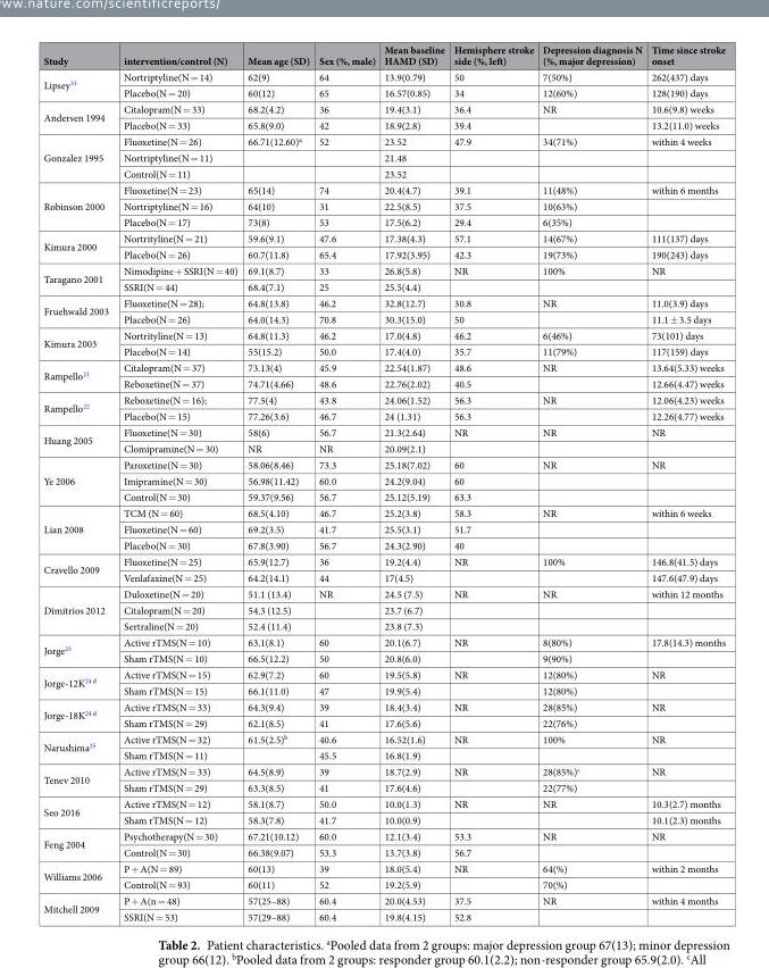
<table><thead><tr><td>Study</td><td>intervention/control (N)</td><td>Mean age (SD)</td><td>Sex (%, male)</td><td>Mean baseline HAMD (SD)</td><td>Hemisphere stroke side (%, left)</td><td>Depression diagnosis N (%, major depression)</td><td>Time since stroke onset</td></tr></thead><tbody><tr><td rowspan="2">Lipsey<sup>33</sup></td><td>Nortriptyline(N = 14)</td><td>62(9)</td><td>64</td><td>13.9(0.79)</td><td>50</td><td>7(50%)</td><td>262(437) days</td></tr><tr><td>Placebo(N = 20)</td><td>60(12)</td><td>65</td><td>16.57(0.85)</td><td>34</td><td>12(60%)</td><td>128(190) days</td></tr><tr><td rowspan="2">Andersen 1994</td><td>Citalopram(N = 33)</td><td>68.2(4.2)</td><td>36</td><td>19.4(3.1)</td><td>36.4</td><td>NR</td><td>10.6(9.8) weeks</td></tr><tr><td>Placebo(N = 33)</td><td>65.8(9.0)</td><td>42</td><td>18.9(2.8)</td><td>39.4</td><td></td><td>13.2(11.0) weeks</td></tr><tr><td rowspan="3">Gonzalez 1995</td><td>Fluoxetine(N = 26)</td><td>66.71(12.60)<sup>a</sup></td><td>52</td><td>23.52</td><td>47.9</td><td>34(71%)</td><td>within 4 weeks</td></tr><tr><td>Nortriptyline(N = 11)</td><td></td><td></td><td>21.48</td><td></td><td></td><td></td></tr><tr><td>Control(N = 11)</td><td></td><td></td><td>23.52</td><td></td><td></td><td></td></tr><tr><td rowspan="3">Robinson 2000</td><td>Fluoxetine(N = 23)</td><td>65(14)</td><td>74</td><td>20.4(4.7)</td><td>39.1</td><td>11(48%)</td><td>within 6 months</td></tr><tr><td>Nortriptyline(N = 16)</td><td>64(10)</td><td>31</td><td>22.5(8.5)</td><td>37.5</td><td>10(63%)</td><td></td></tr><tr><td>Placebo(N = 17)</td><td>73(8)</td><td>53</td><td>17.5(6.2)</td><td>29.4</td><td>6(35%)</td><td></td></tr><tr><td rowspan="2">Kimura 2000</td><td>Nortrityline(N = 21)</td><td>59.6(9.1)</td><td>47.6</td><td>17.38(4.3)</td><td>57.1</td><td>14(67%)</td><td>111(137) days</td></tr><tr><td>Placebo(N = 26)</td><td>60.7(11.8)</td><td>65.4</td><td>17.92(3.95)</td><td>42.3</td><td>19(73%)</td><td>190(243) days</td></tr><tr><td rowspan="2">Taragano 2001</td><td>Nimodipine + SSRI(N = 40)</td><td>69.1(8.7)</td><td>33</td><td>26.8(5.8)</td><td>NR</td><td>100%</td><td>NR</td></tr><tr><td>SSRI(N = 44)</td><td>68.4(7.1)</td><td>25</td><td>25.5(4.4)</td><td></td><td></td><td></td></tr><tr><td rowspan="2">Fruehwald 2003</td><td>Fluoxetine(N = 28);</td><td>64.8(13.8)</td><td>46.2</td><td>32.8(12.7)</td><td>30.8</td><td>NR</td><td>11.0(3.9) days</td></tr><tr><td>Placebo(N = 26)</td><td>64.0(14.3)</td><td>70.8</td><td>30.3(15.0)</td><td>50</td><td></td><td>11.1 ± 3.5 days</td></tr><tr><td rowspan="2">Kimura 2003</td><td>Nortrityline(N = 13)</td><td>64.8(11.3)</td><td>46.2</td><td>17.0(4.8)</td><td>46.2</td><td>6(46%)</td><td>73(101) days</td></tr><tr><td>Placebo(N = 14)</td><td>55(15.2)</td><td>50.0</td><td>17.4(4.0)</td><td>35.7</td><td>11(79%)</td><td>117(159) days</td></tr><tr><td rowspan="2">Rampello<sup>21</sup></td><td>Citalopram(N = 37)</td><td>73.13(4)</td><td>45.9</td><td>22.54(1.87)</td><td>48.6</td><td>NR</td><td>13.64(5.33) weeks</td></tr><tr><td>Reboxetine(N = 37)</td><td>74.71(4.66)</td><td>48.6</td><td>22.76(2.02)</td><td>40.5</td><td></td><td>12.66(4.47) weeks</td></tr><tr><td rowspan="2">Rampello<sup>22</sup></td><td>Reboxetine(N = 16);</td><td>77.5(4)</td><td>43.8</td><td>24.06(1.52)</td><td>56.3</td><td>NR</td><td>12.06(4.23) weeks</td></tr><tr><td>Placebo(N = 15)</td><td>77.26(3.6)</td><td>46.7</td><td>24 (1.31)</td><td>56.3</td><td></td><td>12.26(4.77) weeks</td></tr><tr><td rowspan="2">Huang 2005</td><td>Fluoxetine(N = 30)</td><td>58(6)</td><td>56.7</td><td>21.3(2.64)</td><td>NR</td><td>NR</td><td>NR</td></tr><tr><td>Clomipramine(N = 30)</td><td>NR</td><td>NR</td><td>20.09(2.1)</td><td></td><td></td><td></td></tr><tr><td rowspan="3">Ye 2006</td><td>Paroxetine(N = 30)</td><td>58.06(8.46)</td><td>73.3</td><td>25.18(7.02)</td><td>60</td><td>NR</td><td>NR</td></tr><tr><td>Imipramine(N = 30)</td><td>56.98(11.42)</td><td>60.0</td><td>24.2(9.04)</td><td>60</td><td></td><td></td></tr><tr><td>Control(N = 30)</td><td>59.37(9.56)</td><td>56.7</td><td>25.12(5.19)</td><td>63.3</td><td></td><td></td></tr><tr><td rowspan="3">Lian 2008</td><td>TCM (N = 60)</td><td>68.5(4.10)</td><td>46.7</td><td>25.2(3.8)</td><td>58.3</td><td>NR</td><td>within 6 weeks</td></tr><tr><td>Fluoxetine(N = 60)</td><td>69.2(3.5)</td><td>41.7</td><td>25.5(3.1)</td><td>51.7</td><td></td><td></td></tr><tr><td>Placebo(N = 30)</td><td>67.8(3.90)</td><td>56.7</td><td>24.3(2.90)</td><td>40</td><td></td><td></td></tr><tr><td rowspan="2">Cravello 2009</td><td>Fluoxetine(N = 25)</td><td>65.9(12.7)</td><td>36</td><td>19.2(4.4)</td><td>NR</td><td>100%</td><td>146.8(41.5) days</td></tr><tr><td>Venlafaxine(N = 25)</td><td>64.2(14.1)</td><td>44</td><td>17(4.5)</td><td></td><td></td><td>147.6(47.9) days</td></tr><tr><td rowspan="3">Dimitrios 2012</td><td>Duloxetine(N = 20)</td><td>51.1 (13.4)</td><td>NR</td><td>24.5 (7.5)</td><td>NR</td><td>NR</td><td>within 12 months</td></tr><tr><td>Citalopram(N = 20)</td><td>54.3 (12.5)</td><td></td><td>23.7 (6.7)</td><td></td><td></td><td></td></tr><tr><td>Sertraline(N = 20)</td><td>52.4 (11.4)</td><td></td><td>23.8 (7.3)</td><td></td><td></td><td></td></tr><tr><td rowspan="2">Jorge<sup>23</sup></td><td>Active rTMS(N = 10)</td><td>63.1(8.1)</td><td>60</td><td>20.1(6.7)</td><td>NR</td><td>8(80%)</td><td>17.8(14.3) months</td></tr><tr><td>Sham rTMS(N = 10)</td><td>66.5(12.2)</td><td>50</td><td>20.8(6.0)</td><td></td><td>9(90%)</td><td></td></tr><tr><td rowspan="2">Jorge-12K<sup>24 d</sup></td><td>Active rTMS(N = 15)</td><td>62.9(7.2)</td><td>60</td><td>19.5(5.8)</td><td>NR</td><td>12(80%)</td><td>NR</td></tr><tr><td>Sham rTMS(N = 15)</td><td>66.1(11.0)</td><td>47</td><td>19.9(5.4)</td><td></td><td>12(80%)</td><td></td></tr><tr><td rowspan="2">Jorge-18K<sup>24 d</sup></td><td>Active rTMS(N = 33)</td><td>64.3(9.4)</td><td>39</td><td>18.4(3.4)</td><td>NR</td><td>28(85%)</td><td>NR</td></tr><tr><td>Sham rTMS(N = 29)</td><td>62.1(8.5)</td><td>41</td><td>17.6(5.6)</td><td></td><td>22(76%)</td><td></td></tr><tr><td rowspan="2">Narushima<sup>25</sup></td><td>Active rTMS(N = 32)</td><td>61.5(2.5)<sup>b</sup></td><td>40.6</td><td>16.52(1.6)</td><td>NR</td><td>100%</td><td>NR</td></tr><tr><td>Sham rTMS(N = 11)</td><td></td><td>45.5</td><td>16.8(1.9)</td><td></td><td></td><td></td></tr><tr><td rowspan="2">Tenev 2010</td><td>Active rTMS(N = 33)</td><td>64.5(8.9)</td><td>39</td><td>18.7(2.9)</td><td>NR</td><td>28(85%)<sup>c</sup></td><td>NR</td></tr><tr><td>Sham rTMS(N = 29)</td><td>63.3(8.5)</td><td>41</td><td>17.6(4.6)</td><td></td><td>22(77%)</td><td></td></tr><tr><td rowspan="2">Seo 2016</td><td>Active rTMS(N = 12)</td><td>58.1(8.7)</td><td>50.0</td><td>10.0(1.3)</td><td>NR</td><td>NR</td><td>10.3(2.7) months</td></tr><tr><td>Sham rTMS(N = 12)</td><td>58.3(7.8)</td><td>41.7</td><td>10.0(0.9)</td><td></td><td></td><td>10.1(2.3) months</td></tr><tr><td rowspan="2">Feng 2004</td><td>Psychotherapy(N = 30)</td><td>67.21(10.12)</td><td>60.0</td><td>12.1(3.4)</td><td>53.3</td><td>NR</td><td>NR</td></tr><tr><td>Control(N = 30)</td><td>66.38(9.07)</td><td>53.3</td><td>13.7(3.8)</td><td>56.7</td><td></td><td></td></tr><tr><td rowspan="2">Williams 2006</td><td>P + A(N = 89)</td><td>60(13)</td><td>39</td><td>18.0(5.4)</td><td>NR</td><td>64(%)</td><td>within 2 months</td></tr><tr><td>Control(N = 93)</td><td>60(11)</td><td>52</td><td>19.2(5.9)</td><td></td><td>70(%)</td><td></td></tr><tr><td rowspan="2">Mitchell 2009</td><td>P + A(n = 48)</td><td>57(25–88)</td><td>60.4</td><td>20.0(4.53)</td><td>37.5</td><td>NR</td><td>within 4 months</td></tr><tr><td>SSRI(N = 53)</td><td>57(29–88)</td><td>60.4</td><td>19.8(4.15)</td><td>52.8</td><td></td><td></td></tr></tbody></table>